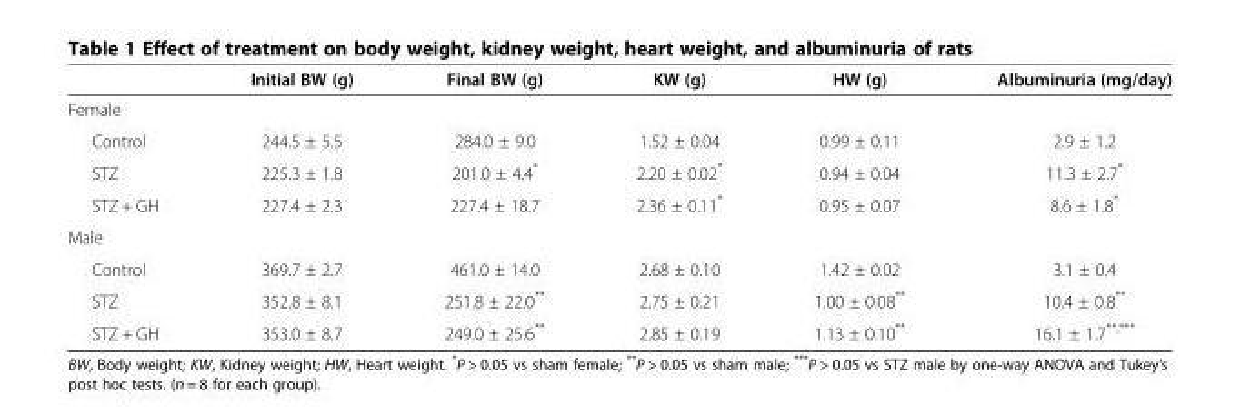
<table><thead><tr><td></td><td>Initial BW (g)</td><td>Final BW (g)</td><td>KW (g)</td><td>HW (g)</td><td>Albuminuria (mg/day)</td></tr></thead><tbody><tr><td colspan="6">Female</td></tr><tr><td>Control</td><td>244.5 ± 5.5</td><td>284.0 ± 9.0</td><td>1.52 ± 0.04</td><td>0.99 ± 0.11</td><td>2.9 ± 1.2</td></tr><tr><td>STZ</td><td>225.3 ± 1.8</td><td>201.0 ± 4.4*</td><td>2.20 ± 0.02*</td><td>0.94 ± 0.04</td><td>11.3 ± 2.7*</td></tr><tr><td>STZ + GH</td><td>227.4 ± 2.3</td><td>227.4 ± 18.7</td><td>2.36 ± 0.11*</td><td>0.95 ± 0.07</td><td>8.6 ± 1.8*</td></tr><tr><td colspan="6">Male</td></tr><tr><td>Control</td><td>369.7 ± 2.7</td><td>461.0 ± 14.0</td><td>2.68 ± 0.10</td><td>1.42 ± 0.02</td><td>3.1 ± 0.4</td></tr><tr><td>STZ</td><td>352.8 ± 8.1</td><td>251.8 ± 22.0**</td><td>2.75 ± 0.21</td><td>1.00 ± 0.08**</td><td>10.4 ± 0.8**</td></tr><tr><td>STZ + GH</td><td>353.0 ± 8.7</td><td>249.0 ± 25.6**</td><td>2.85 ± 0.19</td><td>1.13 ± 0.10**</td><td>16.1 ± 1.7<sup>**,***</sup></td></tr></tbody></table>